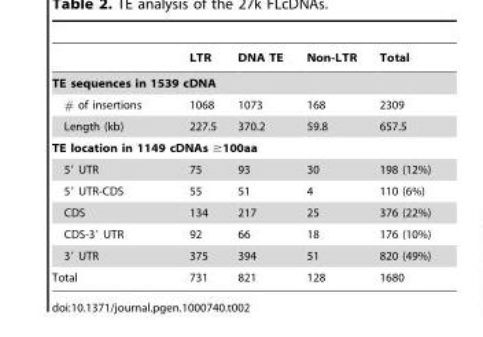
<table><thead><tr><td></td><td>LTR</td><td>DNA TE</td><td>Non-LTR</td><td>Total</td></tr></thead><tbody><tr><td colspan="5">TE sequences in 1539 cDNA</td></tr><tr><td># of insertions</td><td>1068</td><td>1073</td><td>168</td><td>2309</td></tr><tr><td>Length (kb)</td><td>227.5</td><td>370.2</td><td>59.8</td><td>657.5</td></tr><tr><td colspan="5">TE location in 1149 cDNAs ≥100aa</td></tr><tr><td>5′ UTR</td><td>75</td><td>93</td><td>30</td><td>198 (12%)</td></tr><tr><td>5′ UTR-CDS</td><td>55</td><td>51</td><td>4</td><td>110 (6%)</td></tr><tr><td>CDS</td><td>134</td><td>217</td><td>25</td><td>376 (22%)</td></tr><tr><td>CDS-3′ UTR</td><td>92</td><td>66</td><td>18</td><td>176 (10%)</td></tr><tr><td>3′ UTR</td><td>375</td><td>394</td><td>51</td><td>820 (49%)</td></tr><tr><td>Total</td><td>731</td><td>821</td><td>128</td><td>1680</td></tr></tbody></table>